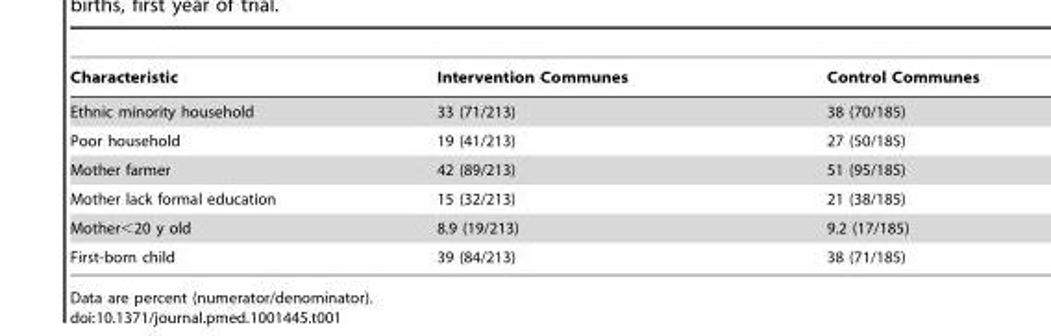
<table><thead><tr><td>Characteristic</td><td>Intervention Communes</td><td>Control Communes</td></tr></thead><tbody><tr><td>Ethnic minority household</td><td>33 (71/213)</td><td>38 (70/185)</td></tr><tr><td>Poor household</td><td>19 (41/213)</td><td>27 (50/185)</td></tr><tr><td>Mother farmer</td><td>42 (89/213)</td><td>51 (95/185)</td></tr><tr><td>Mother lack formal education</td><td>15 (32/213)</td><td>21 (38/185)</td></tr><tr><td>Mother&lt;20 y old</td><td>8.9 (19/213)</td><td>9.2 (17/185)</td></tr><tr><td>First-born child</td><td>39 (84/213)</td><td>38 (71/185)</td></tr></tbody></table>